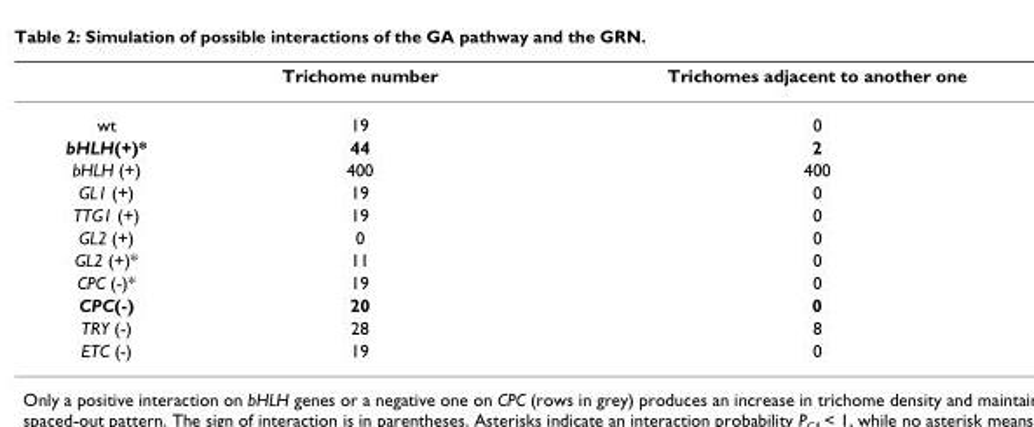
<table><thead><tr><td></td><td>Trichome number</td><td>Trichomes adjacent to another one</td></tr></thead><tbody><tr><td>wt</td><td>19</td><td>0</td></tr><tr><td>bHLH(+)*</td><td>44</td><td>2</td></tr><tr><td>bHLH (+)</td><td>400</td><td>400</td></tr><tr><td>GL1 (+)</td><td>19</td><td>0</td></tr><tr><td>TTG1 (+)</td><td>19</td><td>0</td></tr><tr><td>GL2 (+)</td><td>0</td><td>0</td></tr><tr><td>GL2 (+)*</td><td>11</td><td>0</td></tr><tr><td>CPC (-)*</td><td>19</td><td>0</td></tr><tr><td>CPC(-)</td><td>20</td><td>0</td></tr><tr><td>TRY (-)</td><td>28</td><td>8</td></tr><tr><td>ETC (-)</td><td>19</td><td>0</td></tr></tbody></table>